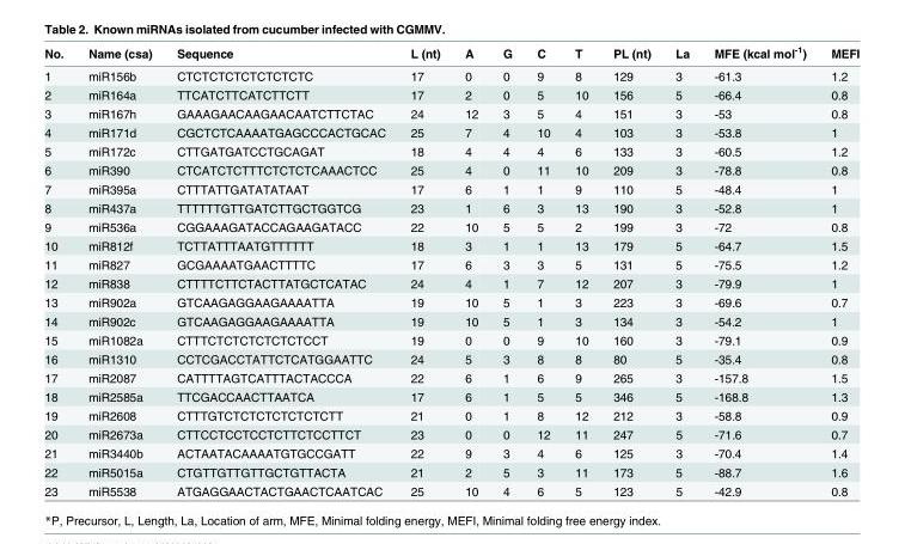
<table><thead><tr><td>No.</td><td>Name (csa)</td><td>Sequence</td><td>L (nt)</td><td>A</td><td>G</td><td>C</td><td>T</td><td>PL (nt)</td><td>La</td><td>MFE (kcal mol<sup>-1</sup>)</td><td>MEFI</td></tr></thead><tbody><tr><td>1</td><td>miR156b</td><td>CTCTCTCTCTCTCTCTC</td><td>17</td><td>0</td><td>0</td><td>9</td><td>8</td><td>129</td><td>3</td><td>-61.3</td><td>1.2</td></tr><tr><td>2</td><td>miR164a</td><td>TTCATCTTCATCTTCTT</td><td>17</td><td>2</td><td>0</td><td>5</td><td>10</td><td>156</td><td>5</td><td>-66.4</td><td>0.8</td></tr><tr><td>3</td><td>miR167h</td><td>GAAAGAACAAGAACAATCTTCTAC</td><td>24</td><td>12</td><td>3</td><td>5</td><td>4</td><td>151</td><td>3</td><td>-53</td><td>0.8</td></tr><tr><td>4</td><td>miR171d</td><td>CGCTCTCAAAATGAGCCCACTGCAC</td><td>25</td><td>7</td><td>4</td><td>10</td><td>4</td><td>103</td><td>3</td><td>-53.8</td><td>1</td></tr><tr><td>5</td><td>miR172c</td><td>CTTGATGATCCTGCAGAT</td><td>18</td><td>4</td><td>4</td><td>4</td><td>6</td><td>133</td><td>3</td><td>-60.5</td><td>1.2</td></tr><tr><td>6</td><td>miR390</td><td>CTCATCTCTTTCTCTCTCAAACTCC</td><td>25</td><td>4</td><td>0</td><td>11</td><td>10</td><td>209</td><td>3</td><td>-78.8</td><td>0.8</td></tr><tr><td>7</td><td>miR395a</td><td>CTTTATTGATATATAAT</td><td>17</td><td>6</td><td>1</td><td>1</td><td>9</td><td>110</td><td>5</td><td>-48.4</td><td>1</td></tr><tr><td>8</td><td>miR437a</td><td>TTTTTTGTTGATCTTGCTGGTCG</td><td>23</td><td>1</td><td>6</td><td>3</td><td>13</td><td>190</td><td>3</td><td>-52.8</td><td>1</td></tr><tr><td>9</td><td>miR536a</td><td>CGGAAAGATACCAGAAGATACC</td><td>22</td><td>10</td><td>5</td><td>5</td><td>2</td><td>199</td><td>3</td><td>-72</td><td>0.8</td></tr><tr><td>10</td><td>miR812f</td><td>TCTTATTTAATGTTTTTT</td><td>18</td><td>3</td><td>1</td><td>1</td><td>13</td><td>179</td><td>5</td><td>-64.7</td><td>1.5</td></tr><tr><td>11</td><td>miR827</td><td>GCGAAAATGAACTTTTC</td><td>17</td><td>6</td><td>3</td><td>3</td><td>5</td><td>131</td><td>5</td><td>-75.5</td><td>1.2</td></tr><tr><td>12</td><td>miR838</td><td>CTTTTCTTCTACTTATGCTCATAC</td><td>24</td><td>4</td><td>1</td><td>7</td><td>12</td><td>207</td><td>3</td><td>-79.9</td><td>1</td></tr><tr><td>13</td><td>miR902a</td><td>GTCAAGAGGAAGAAAATTA</td><td>19</td><td>10</td><td>5</td><td>1</td><td>3</td><td>223</td><td>3</td><td>-69.6</td><td>0.7</td></tr><tr><td>14</td><td>miR902c</td><td>GTCAAGAGGAAGAAAATTA</td><td>19</td><td>10</td><td>5</td><td>1</td><td>3</td><td>134</td><td>3</td><td>-54.2</td><td>1</td></tr><tr><td>15</td><td>miR1082a</td><td>CTTTCTCTCTCTCTCTCCT</td><td>19</td><td>0</td><td>0</td><td>9</td><td>10</td><td>160</td><td>3</td><td>-79.1</td><td>0.9</td></tr><tr><td>16</td><td>miR1310</td><td>CCTCGACCTATTCTCATGGAATTC</td><td>24</td><td>5</td><td>3</td><td>8</td><td>8</td><td>80</td><td>5</td><td>-35.4</td><td>0.8</td></tr><tr><td>17</td><td>miR2087</td><td>CATTTTAGTCATTTACTACCCA</td><td>22</td><td>6</td><td>1</td><td>6</td><td>9</td><td>265</td><td>3</td><td>-157.8</td><td>1.5</td></tr><tr><td>18</td><td>miR2585a</td><td>TTCGACCAACTTAATCA</td><td>17</td><td>6</td><td>1</td><td>5</td><td>5</td><td>346</td><td>5</td><td>-168.8</td><td>1.3</td></tr><tr><td>19</td><td>miR2608</td><td>CTTTGTCTCTCTCTCTCTCTT</td><td>21</td><td>0</td><td>1</td><td>8</td><td>12</td><td>212</td><td>3</td><td>-58.8</td><td>0.9</td></tr><tr><td>20</td><td>miR2673a</td><td>CTTCCTCCTCCTCTTCTCCTTCT</td><td>23</td><td>0</td><td>0</td><td>12</td><td>11</td><td>247</td><td>5</td><td>-71.6</td><td>0.7</td></tr><tr><td>21</td><td>miR3440b</td><td>ACTAATACAAAATGTGCCGATT</td><td>22</td><td>9</td><td>3</td><td>4</td><td>6</td><td>125</td><td>3</td><td>-70.4</td><td>1.4</td></tr><tr><td>22</td><td>miR5015a</td><td>CTGTTGTTGTTGCTGTTACTA</td><td>21</td><td>2</td><td>5</td><td>3</td><td>11</td><td>173</td><td>5</td><td>-88.7</td><td>1.6</td></tr><tr><td>23</td><td>miR5538</td><td>ATGAGGAACTACTGAACTCAATCAC</td><td>25</td><td>10</td><td>4</td><td>6</td><td>5</td><td>123</td><td>5</td><td>-42.9</td><td>0.8</td></tr></tbody></table>